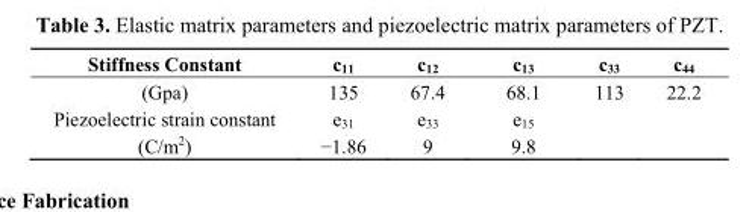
<table><thead><tr><td>Stiffness Constant</td><td>c<sub>11</sub></td><td>c<sub>12</sub></td><td>c<sub>13</sub></td><td>c<sub>33</sub></td><td>c<sub>44</sub></td></tr></thead><tbody><tr><td>(Gpa)</td><td>135</td><td>67.4</td><td>68.1</td><td>113</td><td>22.2</td></tr><tr><td>Piezoelectric strain constant</td><td>e<sub>31</sub></td><td>e<sub>33</sub></td><td>e<sub>15</sub></td><td></td><td></td></tr><tr><td>(C/m<sup>2</sup>)</td><td>−1.86</td><td>9</td><td>9.8</td><td></td><td></td></tr></tbody></table>